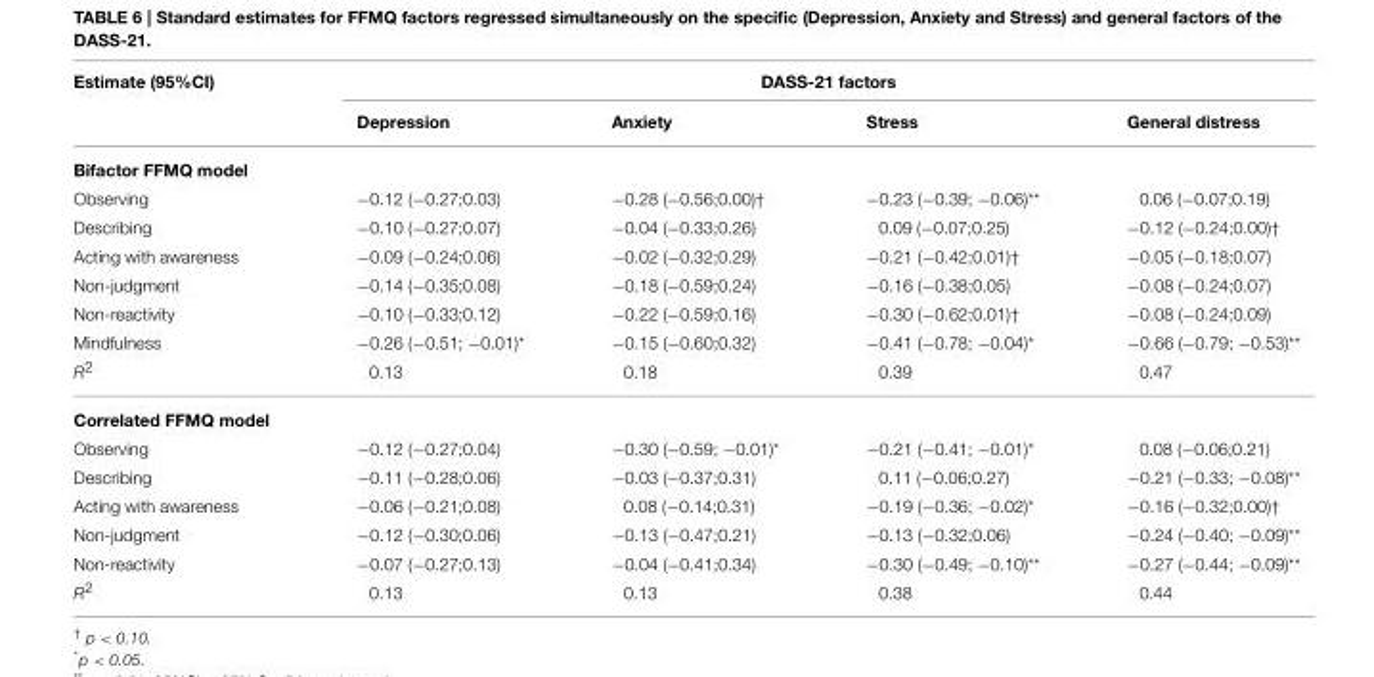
<table><thead><tr><td rowspan="2">Estimate (95%CI)</td><td colspan="4">DASS-21 factors</td></tr><tr><td>Depression</td><td>Anxiety</td><td>Stress</td><td>General distress</td></tr></thead><tbody><tr><td colspan="5">Bifactor FFMQ model</td></tr><tr><td>Observing</td><td>−0.12 (−0.27;0.03)</td><td>−0.28 (−0.56;0.00)†</td><td>−0.23 (−0.39; −0.06)**</td><td>0.06 (−0.07;0.19)</td></tr><tr><td>Describing</td><td>−0.10 (−0.27;0.07)</td><td>−0.04 (−0.33;0.26)</td><td>0.09 (−0.07;0.25)</td><td>−0.12 (−0.24;0.00)†</td></tr><tr><td>Acting with awareness</td><td>−0.09 (−0.24;0.06)</td><td>−0.02 (−0.32;0.29)</td><td>−0.21 (−0.42;0.01)†</td><td>−0.05 (−0.18;0.07)</td></tr><tr><td>Non-judgment</td><td>−0.14 (−0.35;0.08)</td><td>−0.18 (−0.59;0.24)</td><td>−0.16 (−0.38;0.05)</td><td>−0.08 (−0.24;0.07)</td></tr><tr><td>Non-reactivity</td><td>−0.10 (−0.33;0.12)</td><td>−0.22 (−0.59;0.16)</td><td>−0.30 (−0.62;0.01)†</td><td>−0.08 (−0.24;0.09)</td></tr><tr><td>Mindfulness</td><td>−0.26 (−0.51; −0.01)*</td><td>−0.15 (−0.60;0.32)</td><td>−0.41 (−0.78; −0.04)*</td><td>−0.66 (−0.79; −0.53)**</td></tr><tr><td>R<sup>2</sup></td><td>0.13</td><td>0.18</td><td>0.39</td><td>0.47</td></tr><tr><td colspan="5">Correlated FFMQ model</td></tr><tr><td>Observing</td><td>−0.12 (−0.27;0.04)</td><td>−0.30 (−0.59; −0.01)*</td><td>−0.21 (−0.41; −0.01)*</td><td>0.08 (−0.06;0.21)</td></tr><tr><td>Describing</td><td>−0.11 (−0.28;0.06)</td><td>−0.03 (−0.37;0.31)</td><td>0.11 (−0.06;0.27)</td><td>−0.21 (−0.33; −0.08)**</td></tr><tr><td>Acting with awareness</td><td>−0.06 (−0.21;0.08)</td><td>0.08 (−0.14;0.31)</td><td>−0.19 (−0.36; −0.02)*</td><td>−0.16 (−0.32;0.00)†</td></tr><tr><td>Non-judgment</td><td>−0.12 (−0.30;0.06)</td><td>−0.13 (−0.47;0.21)</td><td>−0.13 (−0.32;0.06)</td><td>−0.24 (−0.40; −0.09)**</td></tr><tr><td>Non-reactivity</td><td>−0.07 (−0.27;0.13)</td><td>−0.04 (−0.41;0.34)</td><td>−0.30 (−0.49; −0.10)**</td><td>−0.27 (−0.44; −0.09)**</td></tr><tr><td>R<sup>2</sup></td><td>0.13</td><td>0.13</td><td>0.38</td><td>0.44</td></tr></tbody></table>